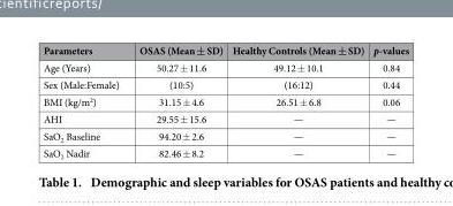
<table><thead><tr><td>Parameters</td><td>OSAS (Mean ± SD)</td><td>Healthy Controls (Mean ± SD)</td><td>p-values</td></tr></thead><tbody><tr><td>Age (Years)</td><td>50.27 ± 11.6</td><td>49.12 ± 10.1</td><td>0.84</td></tr><tr><td>Sex (Male:Female)</td><td>(10:5)</td><td>(16:12)</td><td>0.44</td></tr><tr><td>BMI (kg/m<sup>2</sup>)</td><td>31.15 ± 4.6</td><td>26.51 ± 6.8</td><td>0.06</td></tr><tr><td>AHI</td><td>29.55 ± 15.6</td><td>—</td><td>—</td></tr><tr><td>SaO<sub>2</sub> Baseline</td><td>94.20 ± 2.6</td><td>—</td><td>—</td></tr><tr><td>SaO<sub>2</sub> Nadir</td><td>82.46 ± 8.2</td><td>—</td><td>—</td></tr></tbody></table>